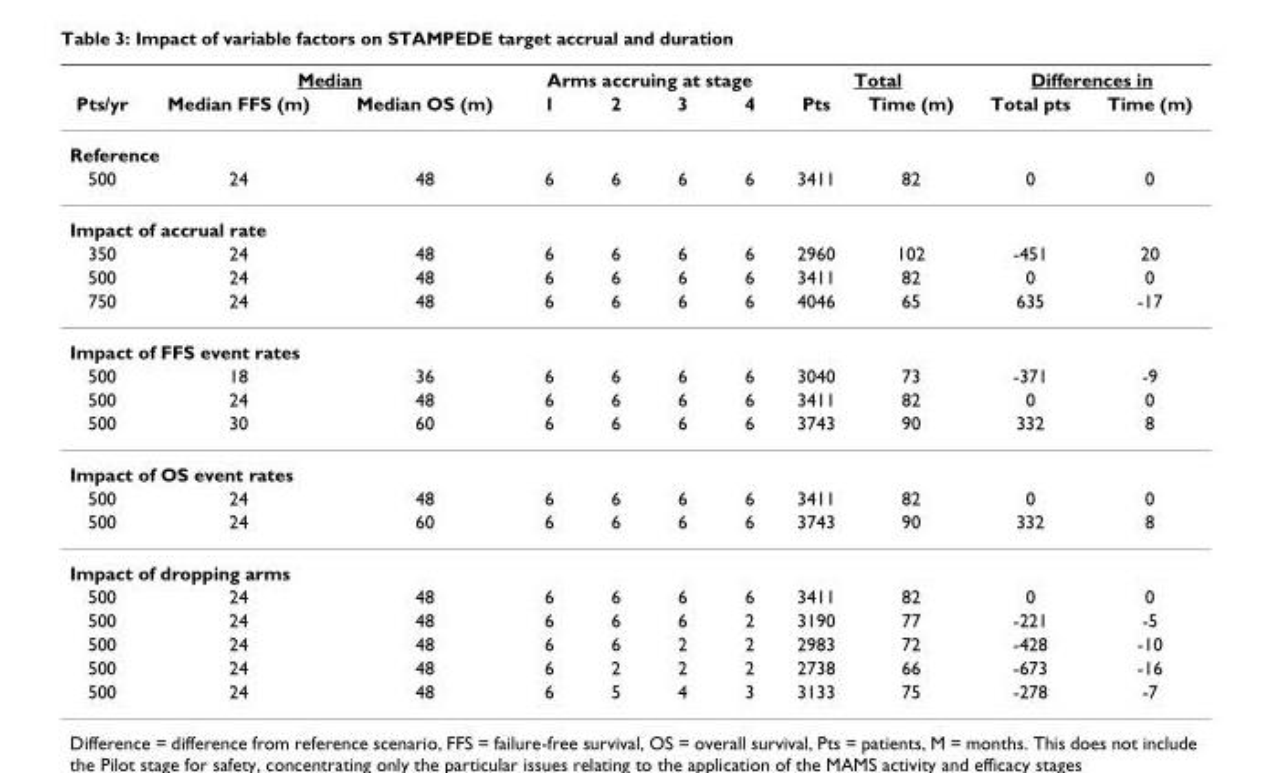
<table><thead><tr><td rowspan="2">Pts/yr</td><td colspan="2">Median</td><td colspan="4">Arms accruing at stage</td><td colspan="2">Total</td><td colspan="2">Differences in</td></tr><tr><td>Median FFS (m)</td><td>Median OS (m)</td><td>1</td><td>2</td><td>3</td><td>4</td><td>Pts</td><td>Time (m)</td><td>Total pts</td><td>Time (m)</td></tr></thead><tbody><tr><td colspan="11">Reference</td></tr><tr><td>500</td><td>24</td><td>48</td><td>6</td><td>6</td><td>6</td><td>6</td><td>3411</td><td>82</td><td>0</td><td>0</td></tr><tr><td colspan="11">Impact of accrual rate</td></tr><tr><td>350</td><td>24</td><td>48</td><td>6</td><td>6</td><td>6</td><td>6</td><td>2960</td><td>102</td><td>-451</td><td>20</td></tr><tr><td>500</td><td>24</td><td>48</td><td>6</td><td>6</td><td>6</td><td>6</td><td>3411</td><td>82</td><td>0</td><td>0</td></tr><tr><td>750</td><td>24</td><td>48</td><td>6</td><td>6</td><td>6</td><td>6</td><td>4046</td><td>65</td><td>635</td><td>-17</td></tr><tr><td colspan="11">Impact of FFS event rates</td></tr><tr><td>500</td><td>18</td><td>36</td><td>6</td><td>6</td><td>6</td><td>6</td><td>3040</td><td>73</td><td>-371</td><td>-9</td></tr><tr><td>500</td><td>24</td><td>48</td><td>6</td><td>6</td><td>6</td><td>6</td><td>3411</td><td>82</td><td>0</td><td>0</td></tr><tr><td>500</td><td>30</td><td>60</td><td>6</td><td>6</td><td>6</td><td>6</td><td>3743</td><td>90</td><td>332</td><td>8</td></tr><tr><td colspan="11">Impact of OS event rates</td></tr><tr><td>500</td><td>24</td><td>48</td><td>6</td><td>6</td><td>6</td><td>6</td><td>3411</td><td>82</td><td>0</td><td>0</td></tr><tr><td>500</td><td>24</td><td>60</td><td>6</td><td>6</td><td>6</td><td>6</td><td>3743</td><td>90</td><td>332</td><td>8</td></tr><tr><td colspan="11">Impact of dropping arms</td></tr><tr><td>500</td><td>24</td><td>48</td><td>6</td><td>6</td><td>6</td><td>6</td><td>3411</td><td>82</td><td>0</td><td>0</td></tr><tr><td>500</td><td>24</td><td>48</td><td>6</td><td>6</td><td>6</td><td>2</td><td>3190</td><td>77</td><td>-221</td><td>-5</td></tr><tr><td>500</td><td>24</td><td>48</td><td>6</td><td>6</td><td>2</td><td>2</td><td>2983</td><td>72</td><td>-428</td><td>-10</td></tr><tr><td>500</td><td>24</td><td>48</td><td>6</td><td>2</td><td>2</td><td>2</td><td>2738</td><td>66</td><td>-673</td><td>-16</td></tr><tr><td>500</td><td>24</td><td>48</td><td>6</td><td>5</td><td>4</td><td>3</td><td>3133</td><td>75</td><td>-278</td><td>-7</td></tr></tbody></table>